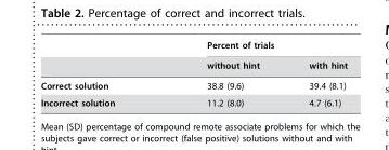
<table><thead><tr><td rowspan="2"></td><td colspan="2">Percent of trials</td></tr><tr><td>without hint</td><td>with hint</td></tr></thead><tbody><tr><td>Correct solution</td><td>38.8 (9.6)</td><td>39.4 (8.1)</td></tr><tr><td>Incorrect solution</td><td>11.2 (8.0)</td><td>4.7 (6.1)</td></tr></tbody></table>